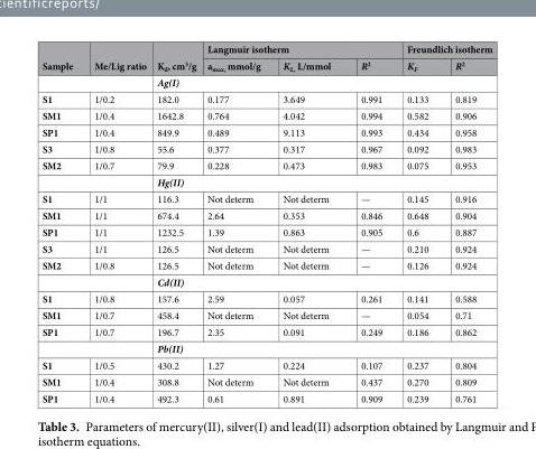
<table><thead><tr><td rowspan="2">Sample</td><td rowspan="2">Me/Lig ratio</td><td rowspan="2">K<sub>d</sub>, cm<sup>3</sup>/g</td><td colspan="3">Langmuir isotherm</td><td colspan="2">Freundlich isotherm</td></tr><tr><td>a<sub>max,</sub> mmol/g</td><td>K<sub>L,</sub> L/mmol</td><td>R<sup>2</sup></td><td>K<sub>F</sub></td><td>R<sup>2</sup></td></tr></thead><tbody><tr><td colspan="2"></td><td colspan="6">Ag(I)</td></tr><tr><td>S1</td><td>1/0.2</td><td>182.0</td><td>0.177</td><td>3.649</td><td>0.991</td><td>0.133</td><td>0.819</td></tr><tr><td>SM1</td><td>1/0.4</td><td>1642.8</td><td>0.764</td><td>4.042</td><td>0.994</td><td>0.582</td><td>0.906</td></tr><tr><td>SP1</td><td>1/0.4</td><td>849.9</td><td>0.489</td><td>9.113</td><td>0.993</td><td>0.434</td><td>0.958</td></tr><tr><td>S3</td><td>1/0.8</td><td>55.6</td><td>0.377</td><td>0.317</td><td>0.967</td><td>0.092</td><td>0.983</td></tr><tr><td>SM2</td><td>1/0.7</td><td>79.9</td><td>0.228</td><td>0.473</td><td>0.983</td><td>0.075</td><td>0.953</td></tr><tr><td colspan="2"></td><td colspan="6">Hg(II)</td></tr><tr><td>S1</td><td>1/1</td><td>116.3</td><td>Not determ</td><td>Not determ</td><td>—</td><td>0.145</td><td>0.916</td></tr><tr><td>SM1</td><td>1/1</td><td>674.4</td><td>2.64</td><td>0.353</td><td>0.846</td><td>0.648</td><td>0.904</td></tr><tr><td>SP1</td><td>1/1</td><td>1232.5</td><td>1.39</td><td>0.863</td><td>0.905</td><td>0.6</td><td>0.887</td></tr><tr><td>S3</td><td>1/1</td><td>126.5</td><td>Not determ</td><td>Not determ</td><td>—</td><td>0.210</td><td>0.924</td></tr><tr><td>SM2</td><td>1/0.8</td><td>126.5</td><td>Not determ</td><td>Not determ</td><td>—</td><td>0.126</td><td>0.924</td></tr><tr><td colspan="2"></td><td colspan="6">Cd(II)</td></tr><tr><td>S1</td><td>1/0.8</td><td>157.6</td><td>2.59</td><td>0.057</td><td>0.261</td><td>0.141</td><td>0.588</td></tr><tr><td>SM1</td><td>1/0.7</td><td>458.4</td><td>Not determ</td><td>Not determ</td><td>—</td><td>0.054</td><td>0.71</td></tr><tr><td>SP1</td><td>1/0.7</td><td>196.7</td><td>2.35</td><td>0.091</td><td>0.249</td><td>0.186</td><td>0.862</td></tr><tr><td colspan="2"></td><td colspan="6">Pb(II)</td></tr><tr><td>S1</td><td>1/0.5</td><td>430.2</td><td>1.27</td><td>0.224</td><td>0.107</td><td>0.237</td><td>0.804</td></tr><tr><td>SM1</td><td>1/0.4</td><td>308.8</td><td>Not determ</td><td>Not determ</td><td>0.437</td><td>0.270</td><td>0.809</td></tr><tr><td>SP1</td><td>1/0.4</td><td>492.3</td><td>0.61</td><td>0.891</td><td>0.909</td><td>0.239</td><td>0.761</td></tr></tbody></table>